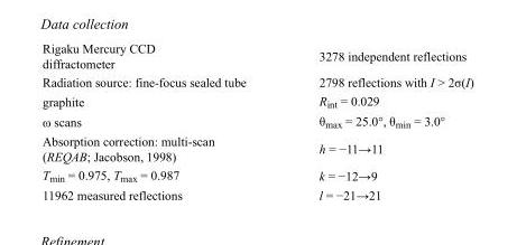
<table><tbody><tr><td>Rigaku Mercury CCD diffractometer</td><td>3278 independent reflections</td></tr><tr><td>Radiation source: fine-focus sealed tube</td><td>2798 reflections with I &gt; 2σ(I)</td></tr><tr><td>graphite</td><td>R<sub>int</sub> = 0.029</td></tr><tr><td>ω scans</td><td>θ<sub>max</sub> = 25.0°, θ<sub>min</sub> = 3.0°</td></tr><tr><td>Absorption correction: multi-scan (REQAB; Jacobson, 1998)</td><td>h = −11→11</td></tr><tr><td>T<sub>min</sub> = 0.975, T<sub>max</sub> = 0.987</td><td>k = −12→9</td></tr><tr><td>11962 measured reflections</td><td>l = −21→21</td></tr></tbody></table>